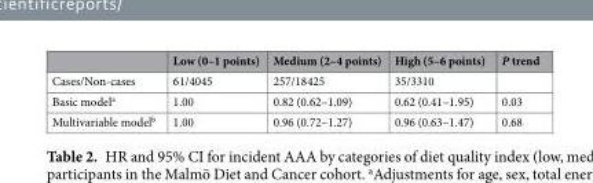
<table><thead><tr><td></td><td>Low (0–1 points)</td><td>Medium (2–4 points)</td><td>High (5–6 points)</td><td>P trend</td></tr></thead><tbody><tr><td>Cases/Non-cases</td><td>61/4045</td><td>257/18425</td><td>35/3310</td><td></td></tr><tr><td>Basic model<sup>a</sup></td><td>1.00</td><td>0.82 (0.62–1.09)</td><td>0.62 (0.41–1.95)</td><td>0.03</td></tr><tr><td>Multivariable model<sup>b</sup></td><td>1.00</td><td>0.96 (0.72–1.27)</td><td>0.96 (0.63–1.47)</td><td>0.68</td></tr></tbody></table>